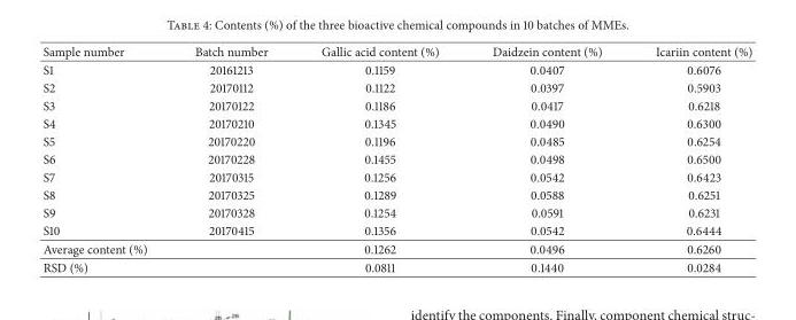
<table><thead><tr><td>Sample number</td><td>Batch number</td><td>Gallic acid content (%)</td><td>Daidzein content (%)</td><td>Icariin content (%)</td></tr></thead><tbody><tr><td>S1</td><td>20161213</td><td>0.1159</td><td>0.0407</td><td>0.6076</td></tr><tr><td>S2</td><td>20170112</td><td>0.1122</td><td>0.0397</td><td>0.5903</td></tr><tr><td>S3</td><td>20170122</td><td>0.1186</td><td>0.0417</td><td>0.6218</td></tr><tr><td>S4</td><td>20170210</td><td>0.1345</td><td>0.0490</td><td>0.6300</td></tr><tr><td>S5</td><td>20170220</td><td>0.1196</td><td>0.0485</td><td>0.6254</td></tr><tr><td>S6</td><td>20170228</td><td>0.1455</td><td>0.0498</td><td>0.6500</td></tr><tr><td>S7</td><td>20170315</td><td>0.1256</td><td>0.0542</td><td>0.6423</td></tr><tr><td>S8</td><td>20170325</td><td>0.1289</td><td>0.0588</td><td>0.6251</td></tr><tr><td>S9</td><td>20170328</td><td>0.1254</td><td>0.0591</td><td>0.6231</td></tr><tr><td>S10</td><td>20170415</td><td>0.1356</td><td>0.0542</td><td>0.6444</td></tr><tr><td>Average content (%)</td><td></td><td>0.1262</td><td>0.0496</td><td>0.6260</td></tr><tr><td>RSD (%)</td><td></td><td>0.0811</td><td>0.1440</td><td>0.0284</td></tr></tbody></table>